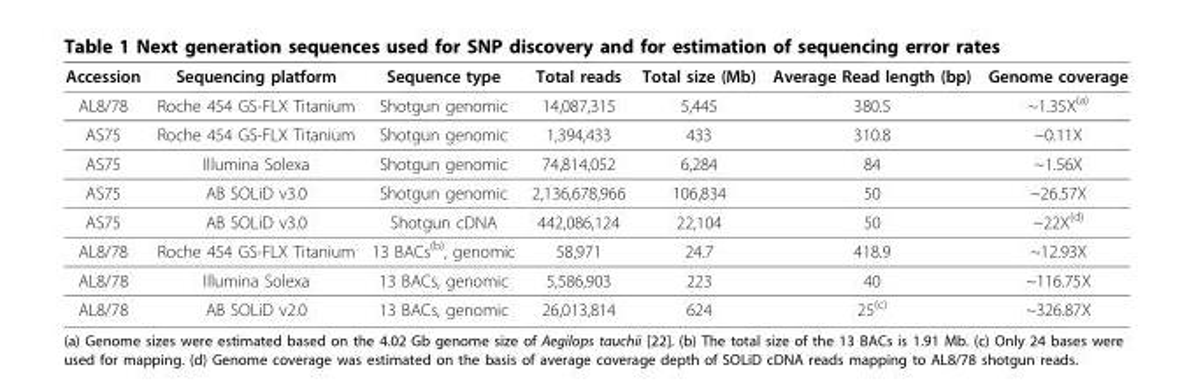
<table><thead><tr><td>Accession</td><td>Sequencing platform</td><td>Sequence type</td><td>Total reads</td><td>Total size (Mb)</td><td>Average Read length (bp)</td><td>Genome coverage</td></tr></thead><tbody><tr><td>AL8/78</td><td>Roche 454 GS-FLX Titanium</td><td>Shotgun genomic</td><td>14,087,315</td><td>5,445</td><td>380.5</td><td>~1.35X<sup>(a)</sup></td></tr><tr><td>AS75</td><td>Roche 454 GS-FLX Titanium</td><td>Shotgun genomic</td><td>1,394,433</td><td>433</td><td>310.8</td><td>~0.11X</td></tr><tr><td>AS75</td><td>Illumina Solexa</td><td>Shotgun genomic</td><td>74,814,052</td><td>6,284</td><td>84</td><td>~1.56X</td></tr><tr><td>AS75</td><td>AB SOLiD v3.0</td><td>Shotgun genomic</td><td>2,136,678,966</td><td>106,834</td><td>50</td><td>~26.57X</td></tr><tr><td>AS75</td><td>AB SOLiD v3.0</td><td>Shotgun cDNA</td><td>442,086,124</td><td>22,104</td><td>50</td><td>~22X<sup>(d)</sup></td></tr><tr><td>AL8/78</td><td>Roche 454 GS-FLX Titanium</td><td>13 BACs<sup>(b)</sup>, genomic</td><td>58,971</td><td>24.7</td><td>418.9</td><td>~12.93X</td></tr><tr><td>AL8/78</td><td>Illumina Solexa</td><td>13 BACs, genomic</td><td>5,586,903</td><td>223</td><td>40</td><td>~116.75X</td></tr><tr><td>AL8/78</td><td>AB SOLiD v2.0</td><td>13 BACs, genomic</td><td>26,013,814</td><td>624</td><td>25<sup>(c)</sup></td><td>~326.87X</td></tr></tbody></table>